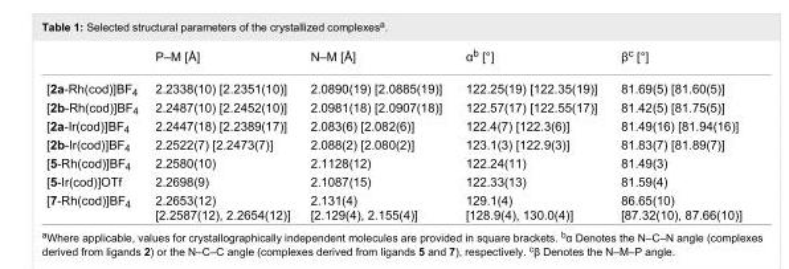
<table><thead><tr><td></td><td>P–M [Å]</td><td>N–M [Å]</td><td>α<sup>b</sup> [°]</td><td>β<sup>c</sup> [°]</td></tr></thead><tbody><tr><td>[2a-Rh(cod)]BF<sub>4</sub></td><td>2.2338(10) [2.2351(10)]</td><td>2.0890(19) [2.0885(19)]</td><td>122.25(19) [122.35(19)]</td><td>81.69(5) [81.60(5)]</td></tr><tr><td>[2b-Rh(cod)]BF<sub>4</sub></td><td>2.2487(10) [2.2452(10)]</td><td>2.0981(18) [2.0907(18)]</td><td>122.57(17) [122.55(17)]</td><td>81.42(5) [81.75(5)]</td></tr><tr><td>[2a-Ir(cod)]BF<sub>4</sub></td><td>2.2447(18) [2.2389(17)]</td><td>2.083(6) [2.082(6)]</td><td>122.4(7) [122.3(6)]</td><td>81.49(16) [81.94(16)]</td></tr><tr><td>[2b-Ir(cod)]BF<sub>4</sub></td><td>2.2522(7) [2.2473(7)]</td><td>2.088(2) [2.080(2)]</td><td>123.1(3) [122.9(3)]</td><td>81.83(7) [81.89(7)]</td></tr><tr><td>[5-Rh(cod)]BF<sub>4</sub></td><td>2.2580(10)</td><td>2.1128(12)</td><td>122.24(11)</td><td>81.49(3)</td></tr><tr><td>[5-Ir(cod)]OTf</td><td>2.2698(9)</td><td>2.1087(15)</td><td>122.33(13)</td><td>81.59(4)</td></tr><tr><td>[7-Rh(cod)]BF<sub>4</sub></td><td>2.2653(12) [2.2587(12), 2.2654(12)]</td><td>2.131(4) [2.129(4), 2.155(4)]</td><td>129.1(4) [128.9(4), 130.0(4)]</td><td>86.65(10) [87.32(10), 87.66(10)]</td></tr></tbody></table>